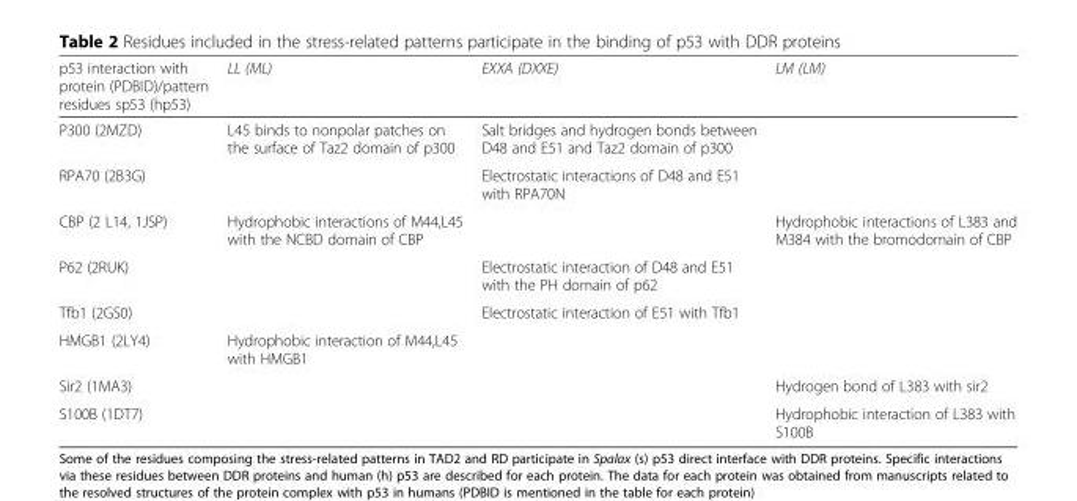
<table><thead><tr><td>p53 interaction with protein (PDBID)/pattern residues sp53 (hp53)</td><td>LL (ML)</td><td>EXXA (DXXE)</td><td>LM (LM)</td></tr></thead><tbody><tr><td>P300 (2MZD)</td><td>L45 binds to nonpolar patches on the surface of Taz2 domain of p300</td><td>Salt bridges and hydrogen bonds between D48 and E51 and Taz2 domain of p300</td><td></td></tr><tr><td>RPA70 (2B3G)</td><td></td><td>Electrostatic interactions of D48 and E51 with RPA70N</td><td></td></tr><tr><td>CBP (2 L14, 1JSP)</td><td>Hydrophobic interactions of M44,L45 with the NCBD domain of CBP</td><td></td><td>Hydrophobic interactions of L383 and M384 with the bromodomain of CBP</td></tr><tr><td>P62 (2RUK)</td><td></td><td>Electrostatic interaction of D48 and E51 with the PH domain of p62</td><td></td></tr><tr><td>Tfb1 (2GS0)</td><td></td><td>Electrostatic interaction of E51 with Tfb1</td><td></td></tr><tr><td>HMGB1 (2LY4)</td><td>Hydrophobic interaction of M44,L45 with HMGB1</td><td></td><td></td></tr><tr><td>Sir2 (1MA3)</td><td></td><td></td><td>Hydrogen bond of L383 with sir2</td></tr><tr><td>S100B (1DT7)</td><td></td><td></td><td>Hydrophobic interaction of L383 with S100B</td></tr></tbody></table>